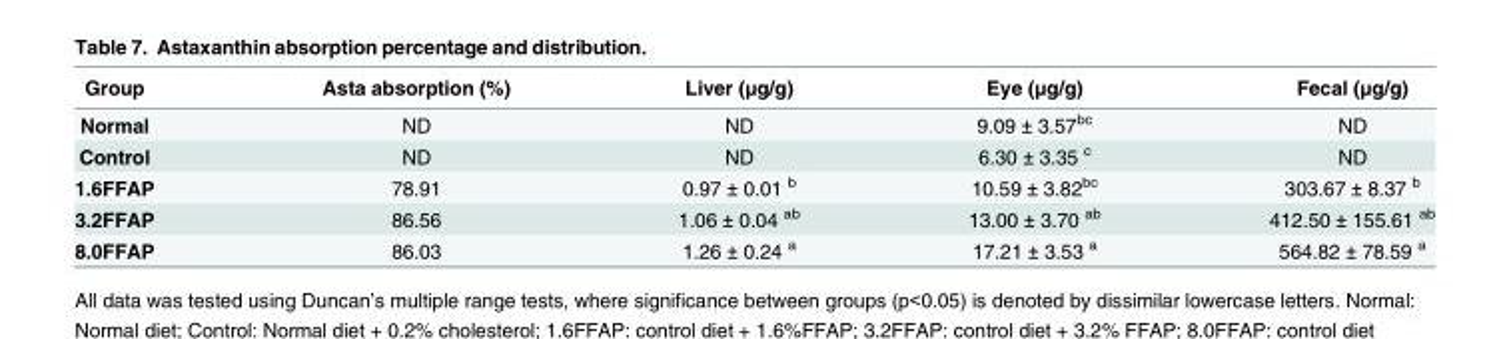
<table><thead><tr><td>Group</td><td>Asta absorption (%)</td><td>Liver (μg/g)</td><td>Eye (μg/g)</td><td>Fecal (μg/g)</td></tr></thead><tbody><tr><td>Normal</td><td>ND</td><td>ND</td><td>9.09 ± 3.57<sup>bc</sup></td><td>ND</td></tr><tr><td>Control</td><td>ND</td><td>ND</td><td>6.30 ± 3.35 <sup>c</sup></td><td>ND</td></tr><tr><td>1.6FFAP</td><td>78.91</td><td>0.97 ± 0.01 <sup>b</sup></td><td>10.59 ± 3.82<sup>bc</sup></td><td>303.67 ± 8.37 <sup>b</sup></td></tr><tr><td>3.2FFAP</td><td>86.56</td><td>1.06 ± 0.04 <sup>ab</sup></td><td>13.00 ± 3.70 <sup>ab</sup></td><td>412.50 ± 155.61 <sup>ab</sup></td></tr><tr><td>8.0FFAP</td><td>86.03</td><td>1.26 ± 0.24 <sup>a</sup></td><td>17.21 ± 3.53 <sup>a</sup></td><td>564.82 ± 78.59 <sup>a</sup></td></tr></tbody></table>